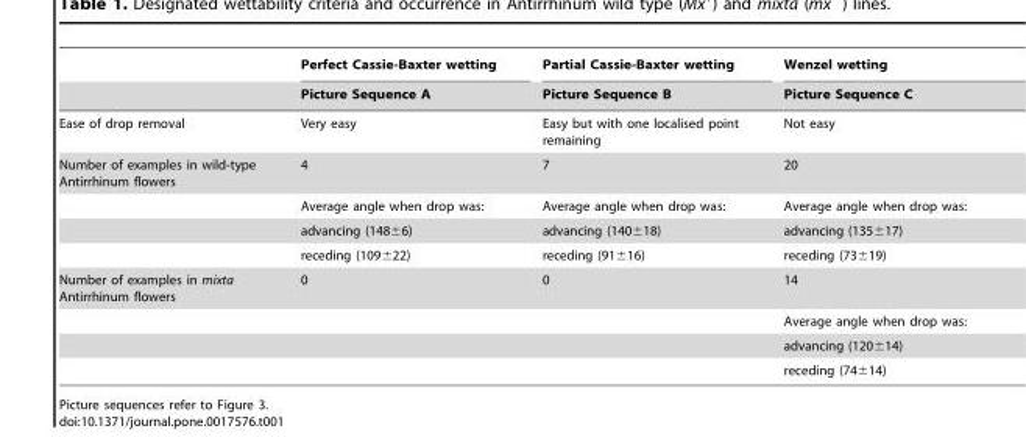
<table><thead><tr><td rowspan="2"></td><td rowspan="2">Perfect Cassie-Baxter wetting Picture Sequence A</td><td rowspan="2">Partial Cassie-Baxter wetting Picture Sequence B</td><td rowspan="2">Wenzel wetting Picture Sequence C</td></tr><tr></tr></thead><tbody><tr><td>Ease of drop removal</td><td>Very easy</td><td>Easy but with one localised point remaining</td><td>Not easy</td></tr><tr><td rowspan="4">Number of examples in wild-type Antirrhinum flowers</td><td>4</td><td>7</td><td>20</td></tr><tr><td>Average angle when drop was:</td><td>Average angle when drop was:</td><td>Average angle when drop was:</td></tr><tr><td>advancing (148±6)</td><td>advancing (140±18)</td><td>advancing (135±17)</td></tr><tr><td>receding (109±22)</td><td>receding (91±16)</td><td>receding (73±19)</td></tr><tr><td rowspan="4">Number of examples in mixta Antirrhinum flowers</td><td>0</td><td>0</td><td>14</td></tr><tr><td></td><td></td><td>Average angle when drop was:</td></tr><tr><td></td><td></td><td>advancing (120±14)</td></tr><tr><td></td><td></td><td>receding (74±14)</td></tr></tbody></table>